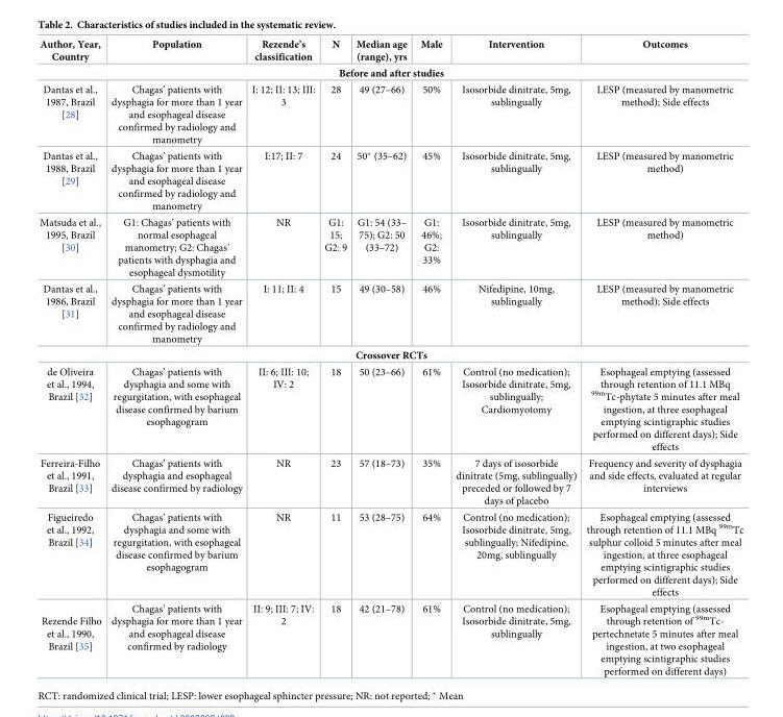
<table><thead><tr><td>Author, Year, Country</td><td>Population</td><td>Rezende’s classification</td><td>N</td><td>Median age (range), yrs</td><td>Male</td><td>Intervention</td><td>Outcomes</td></tr></thead><tbody><tr><td colspan="8">Before and after studies</td></tr><tr><td>Dantas et al., 1987, Brazil [28]</td><td>Chagas’ patients with dysphagia for more than 1 year and esophageal disease confirmed by radiology and manometry</td><td>I: 12; II: 13; III: 3</td><td>28</td><td>49 (27–66)</td><td>50%</td><td>Isosorbide dinitrate, 5mg, sublingually</td><td>LESP (measured by manometric method); Side effects</td></tr><tr><td>Dantas et al., 1988, Brazil [29]</td><td>Chagas’ patients with dysphagia for more than 1 year and esophageal disease confirmed by radiology and manometry</td><td>I:17; II: 7</td><td>24</td><td>50* (35–62)</td><td>45%</td><td>Isosorbide dinitrate, 5mg, sublingually</td><td>LESP (measured by manometric method)</td></tr><tr><td>Matsuda et al., 1995, Brazil [30]</td><td>G1: Chagas’ patients with normal esophageal manometry; G2: Chagas’ patients with dysphagia and esophageal dysmotility</td><td>NR</td><td>G1: 15; G2: 9</td><td>G1: 54 (33– 75); G2: 50 (33–72)</td><td>G1: 46%; G2: 33%</td><td>Isosorbide dinitrate, 5mg, sublingually</td><td>LESP (measured by manometric method)</td></tr><tr><td>Dantas et al., 1986, Brazil [31]</td><td>Chagas’ patients with dysphagia for more than 1 year and esophageal disease confirmed by radiology and manometry</td><td>I: 11; II: 4</td><td>15</td><td>49 (30–58)</td><td>46%</td><td>Nifedipine, 10mg, sublingually</td><td>LESP (measured by manometric method); Side effects</td></tr><tr><td colspan="8">Crossover RCTs</td></tr><tr><td>de Oliveira et al., 1994, Brazil [32]</td><td>Chagas’ patients with dysphagia and some with regurgitation, with esophageal disease confirmed by barium esophagogram</td><td>II: 6; III: 10; IV: 2</td><td>18</td><td>50 (23–66)</td><td>61%</td><td>Control (no medication); Isosorbide dinitrate, 5mg, sublingually; Cardiomyotomy</td><td>Esophageal emptying (assessed through retention of 11.1 MBq <sup>99m</sup>Tc-phytate 5 minutes after meal ingestion, at three esophageal emptying scintigraphic studies performed on different days); Side effects</td></tr><tr><td>Ferreira-Filho et al., 1991, Brazil [33]</td><td>Chagas’ patients with dysphagia and esophageal disease confirmed by radiology</td><td>NR</td><td>23</td><td>57 (18–73)</td><td>35%</td><td>7 days of isosorbide dinitrate (5mg, sublingually) preceded or followed by 7 days of placebo</td><td>Frequency and severity of dysphagia and side effects, evaluated at regular interviews</td></tr><tr><td>Figueiredo et al., 1992, Brazil [34]</td><td>Chagas’ patients with dysphagia and some with regurgitation, with esophageal disease confirmed by barium esophagogram</td><td>NR</td><td>11</td><td>53 (28–75)</td><td>64%</td><td>Control (no medication); Isosorbide dinitrate, 5mg, sublingually; Nifedipine, 20mg, sublingually</td><td>Esophageal emptying (assessed through retention of 11.1 MBq <sup>99m</sup>Tc sulphur colloid 5 minutes after meal ingestion, at three esophageal emptying scintigraphic studies performed on different days); Side effects</td></tr><tr><td>Rezende Filho et al., 1990, Brazil [35]</td><td>Chagas’ patients with dysphagia for more than 1 year and esophageal disease confirmed by radiology</td><td>II: 9; III: 7; IV: 2</td><td>18</td><td>42 (21–78)</td><td>61%</td><td>Control (no medication); Isosorbide dinitrate, 5mg, sublingually</td><td>Esophageal emptying (assessed through retention of <sup>99m</sup>Tc- pertechnetate 5 minutes after meal ingestion, at two esophageal emptying scintigraphic studies performed on different days)</td></tr></tbody></table>